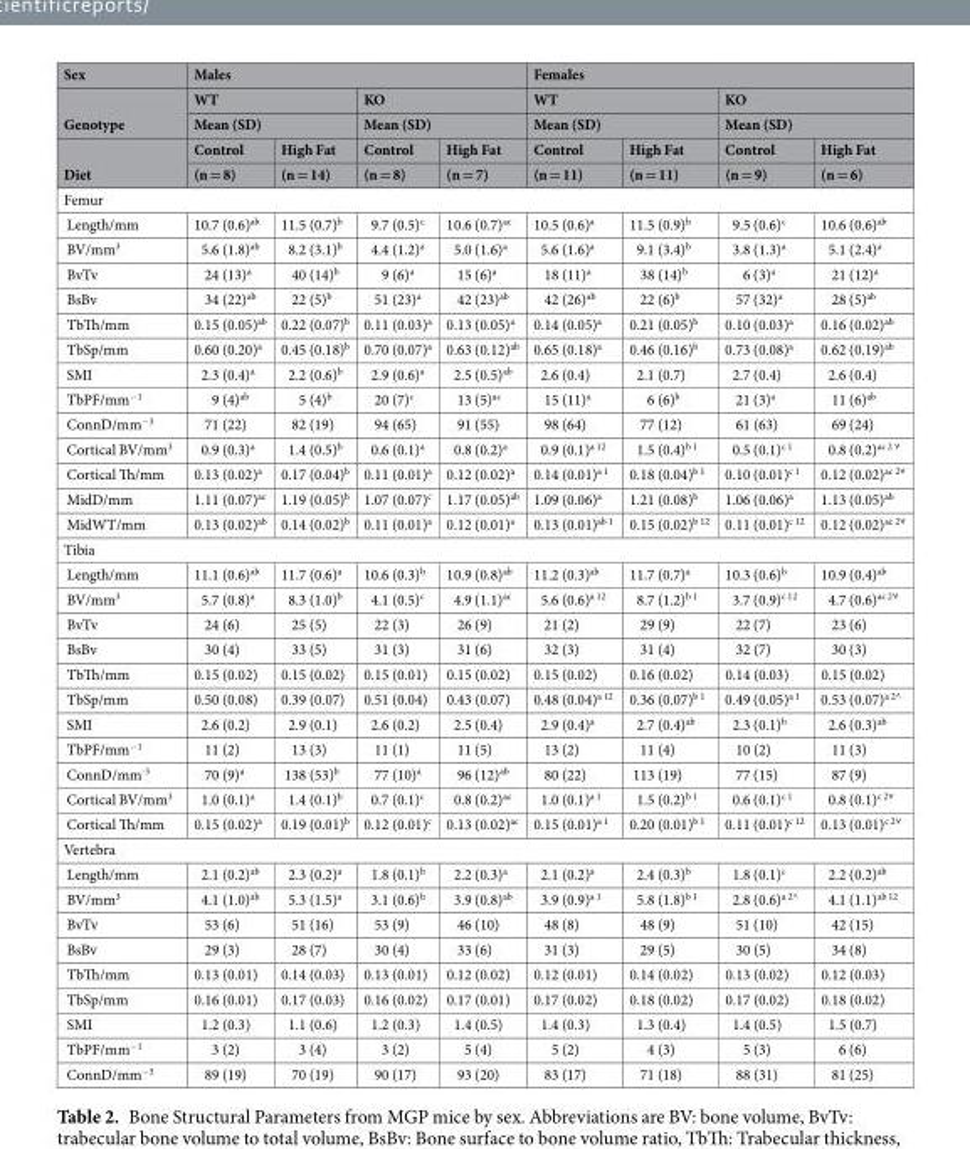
<table><thead><tr><td rowspan="5">Sex Genotype Diet</td><td colspan="4">Males</td><td colspan="4">Females</td></tr><tr><td rowspan="2" colspan="2">WT Mean (SD)</td><td rowspan="2" colspan="2">KO Mean (SD)</td><td rowspan="2" colspan="2">WT Mean (SD)</td><td rowspan="2" colspan="2">KO Mean (SD)</td></tr><tr></tr><tr><td rowspan="2">Control (n = 8)</td><td rowspan="2">High Fat (n = 14)</td><td rowspan="2">Control (n = 8)</td><td rowspan="2">High Fat (n = 7)</td><td rowspan="2">Control (n = 11)</td><td rowspan="2">High Fat (n = 11)</td><td rowspan="2">Control (n = 9)</td><td rowspan="2">High Fat (n = 6)</td></tr><tr></tr></thead><tbody><tr><td colspan="9">Femur</td></tr><tr><td>Length/mm</td><td>10.7 (0.6)<sup>ab</sup></td><td>11.5 (0.7)<sup>b</sup></td><td>9.7 (0.5)<sup>c</sup></td><td>10.6 (0.7)<sup>ac</sup></td><td>10.5 (0.6)<sup>a</sup></td><td>11.5 (0.9)<sup>b</sup></td><td>9.5 (0.6)<sup>c</sup></td><td>10.6 (0.6)<sup>ab</sup></td></tr><tr><td>BV/mm<sup>3</sup></td><td>5.6 (1.8)<sup>ab</sup></td><td>8.2 (3.1)<sup>b</sup></td><td>4.4 (1.2)<sup>a</sup></td><td>5.0 (1.6)<sup>a</sup></td><td>5.6 (1.6)<sup>a</sup></td><td>9.1 (3.4)<sup>b</sup></td><td>3.8 (1.3)<sup>a</sup></td><td>5.1 (2.4)<sup>a</sup></td></tr><tr><td>BvTv</td><td>24 (13)<sup>a</sup></td><td>40 (14)<sup>b</sup></td><td>9 (6)<sup>a</sup></td><td>15 (6)<sup>a</sup></td><td>18 (11)<sup>a</sup></td><td>38 (14)<sup>b</sup></td><td>6 (3)<sup>a</sup></td><td>21 (12)<sup>a</sup></td></tr><tr><td>BsBv</td><td>34 (22)<sup>ab</sup></td><td>22 (5)<sup>b</sup></td><td>51 (23)<sup>a</sup></td><td>42 (23)<sup>ab</sup></td><td>42 (26)<sup>ab</sup></td><td>22 (6)<sup>b</sup></td><td>57 (32)<sup>a</sup></td><td>28 (5)<sup>ab</sup></td></tr><tr><td>TbTh/mm</td><td>0.15 (0.05)<sup>ab</sup></td><td>0.22 (0.07)<sup>b</sup></td><td>0.11 (0.03)<sup>a</sup></td><td>0.13 (0.05)<sup>a</sup></td><td>0.14 (0.05)<sup>a</sup></td><td>0.21 (0.05)<sup>b</sup></td><td>0.10 (0.03)<sup>a</sup></td><td>0.16 (0.02)<sup>ab</sup></td></tr><tr><td>TbSp/mm</td><td>0.60 (0.20)<sup>a</sup></td><td>0.45 (0.18)<sup>b</sup></td><td>0.70 (0.07)<sup>a</sup></td><td>0.63 (0.12)<sup>ab</sup></td><td>0.65 (0.18)<sup>a</sup></td><td>0.46 (0.16)<sup>b</sup></td><td>0.73 (0.08)<sup>a</sup></td><td>0.62 (0.19)<sup>ab</sup></td></tr><tr><td>SMI</td><td>2.3 (0.4)<sup>a</sup></td><td>2.2 (0.6)<sup>b</sup></td><td>2.9 (0.6)<sup>a</sup></td><td>2.5 (0.5)<sup>ab</sup></td><td>2.6 (0.4)</td><td>2.1 (0.7)</td><td>2.7 (0.4)</td><td>2.6 (0.4)</td></tr><tr><td>TbPF/mm<sup>−1</sup></td><td>9 (4)<sup>ab</sup></td><td>5 (4)<sup>b</sup></td><td>20 (7)<sup>c</sup></td><td>13 (5)<sup>ac</sup></td><td>15 (11)<sup>a</sup></td><td>6 (6)<sup>b</sup></td><td>21 (3)<sup>a</sup></td><td>11 (6)<sup>ab</sup></td></tr><tr><td>ConnD/mm<sup>−3</sup></td><td>71 (22)</td><td>82 (19)</td><td>94 (65)</td><td>91 (55)</td><td>98 (64)</td><td>77 (12)</td><td>61 (63)</td><td>69 (24)</td></tr><tr><td>Cortical BV/mm<sup>3</sup></td><td>0.9 (0.3)<sup>a</sup></td><td>1.4 (0.5)<sup>b</sup></td><td>0.6 (0.1)<sup>a</sup></td><td>0.8 (0.2)<sup>a</sup></td><td>0.9 (0.1)<sup>a 12</sup></td><td>1.5 (0.4)<sup>b 1</sup></td><td>0.5 (0.1)<sup>c 1</sup></td><td>0.8 (0.2)<sup>ac 2 ˅</sup></td></tr><tr><td>Cortical Th/mm</td><td>0.13 (0.02)<sup>a</sup></td><td>0.17 (0.04)<sup>b</sup></td><td>0.11 (0.01)<sup>a</sup></td><td>0.12 (0.02)<sup>a</sup></td><td>0.14 (0.01)<sup>a 1</sup></td><td>0.18 (0.04)<sup>b 1</sup></td><td>0.10 (0.01)<sup>c 1</sup></td><td>0.12 (0.02)<sup>ac 2˅</sup></td></tr><tr><td>MidD/mm</td><td>1.11 (0.07)<sup>ac</sup></td><td>1.19 (0.05)<sup>b</sup></td><td>1.07 (0.07)<sup>c</sup></td><td>1.17 (0.05)<sup>ab</sup></td><td>1.09 (0.06)<sup>a</sup></td><td>1.21 (0.08)<sup>b</sup></td><td>1.06 (0.06)<sup>a</sup></td><td>1.13 (0.05)<sup>ab</sup></td></tr><tr><td>MidWT/mm</td><td>0.13 (0.02)<sup>ab</sup></td><td>0.14 (0.02)<sup>b</sup></td><td>0.11 (0.01)<sup>a</sup></td><td>0.12 (0.01)<sup>a</sup></td><td>0.13 (0.01)<sup>ab 1</sup></td><td>0.15 (0.02)<sup>b 12</sup></td><td>0.11 (0.01)<sup>c 12</sup></td><td>0.12 (0.02)<sup>ac 2˅</sup></td></tr><tr><td colspan="9">Tibia</td></tr><tr><td>Length/mm</td><td>11.1 (0.6)<sup>ab</sup></td><td>11.7 (0.6)<sup>a</sup></td><td>10.6 (0.3)<sup>b</sup></td><td>10.9 (0.8)<sup>ab</sup></td><td>11.2 (0.3)<sup>ab</sup></td><td>11.7 (0.7)<sup>a</sup></td><td>10.3 (0.6)<sup>b</sup></td><td>10.9 (0.4)<sup>ab</sup></td></tr><tr><td>BV/mm<sup>3</sup></td><td>5.7 (0.8)<sup>a</sup></td><td>8.3 (1.0)<sup>b</sup></td><td>4.1 (0.5)<sup>c</sup></td><td>4.9 (1.1)<sup>ac</sup></td><td>5.6 (0.6)<sup>a 12</sup></td><td>8.7 (1.2)<sup>b 1</sup></td><td>3.7 (0.9)<sup>c 12</sup></td><td>4.7 (0.6)<sup>ac 2˅</sup></td></tr><tr><td>BvTv</td><td>24 (6)</td><td>25 (5)</td><td>22 (3)</td><td>26 (9)</td><td>21 (2)</td><td>29 (9)</td><td>22 (7)</td><td>23 (6)</td></tr><tr><td>BsBv</td><td>30 (4)</td><td>33 (5)</td><td>31 (3)</td><td>31 (6)</td><td>32 (3)</td><td>31 (4)</td><td>32 (7)</td><td>30 (3)</td></tr><tr><td>TbTh/mm</td><td>0.15 (0.02)</td><td>0.15 (0.02)</td><td>0.15 (0.01)</td><td>0.15 (0.02)</td><td>0.15 (0.02)</td><td>0.16 (0.02)</td><td>0.14 (0.03)</td><td>0.15 (0.02)</td></tr><tr><td>TbSp/mm</td><td>0.50 (0.08)</td><td>0.39 (0.07)</td><td>0.51 (0.04)</td><td>0.43 (0.07)</td><td>0.48 (0.04)<sup>a 12</sup></td><td>0.36 (0.07)<sup>b 1</sup></td><td>0.49 (0.05)<sup>a 1</sup></td><td>0.53 (0.07)a 2^</td></tr><tr><td>SMI</td><td>2.6 (0.2)</td><td>2.9 (0.1)</td><td>2.6 (0.2)</td><td>2.5 (0.4)</td><td>2.9 (0.4)<sup>a</sup></td><td>2.7 (0.4)<sup>ab</sup></td><td>2.3 (0.1)<sup>b</sup></td><td>2.6 (0.3)<sup>ab</sup></td></tr><tr><td>TbPF/mm<sup>−1</sup></td><td>11 (2)</td><td>13 (3)</td><td>11 (1)</td><td>11 (5)</td><td>13 (2)</td><td>11 (4)</td><td>10 (2)</td><td>11 (3)</td></tr><tr><td>ConnD/mm<sup>-3</sup></td><td>70 (9)<sup>a</sup></td><td>138 (53)<sup>b</sup></td><td>77 (10)<sup>a</sup></td><td>96 (12)<sup>ab</sup></td><td>80 (22)</td><td>113 (19)</td><td>77 (15)</td><td>87 (9)</td></tr><tr><td>Cortical BV/mm<sup>3</sup></td><td>1.0 (0.1)<sup>a</sup></td><td>1.4 (0.1)<sup>b</sup></td><td>0.7 (0.1)<sup>c</sup></td><td>0.8 (0.2)<sup>ac</sup></td><td>1.0 (0.1)<sup>a 1</sup></td><td>1.5 (0.2)<sup>b 1</sup></td><td>0.6 (0.1)<sup>c 1</sup></td><td>0.8 (0.1)<sup>c 2˅</sup></td></tr><tr><td>Cortical Th/mm</td><td>0.15 (0.02)<sup>a</sup></td><td>0.19 (0.01)<sup>b</sup></td><td>0.12 (0.01)<sup>c</sup></td><td>0.13 (0.02)<sup>ac</sup></td><td>0.15 (0.01)<sup>a 1</sup></td><td>0.20 (0.01)<sup>b 1</sup></td><td>0.11 (0.01)<sup>c 12</sup></td><td>0.13 (0.01)<sup>c 2˅</sup></td></tr><tr><td colspan="9">Vertebra</td></tr><tr><td>Length/mm</td><td>2.1 (0.2)<sup>ab</sup></td><td>2.3 (0.2)<sup>a</sup></td><td>1.8 (0.1)<sup>b</sup></td><td>2.2 (0.3)<sup>a</sup></td><td>2.1 (0.2)<sup>a</sup></td><td>2.4 (0.3)<sup>b</sup></td><td>1.8 (0.1)<sup>c</sup></td><td>2.2 (0.2)<sup>ab</sup></td></tr><tr><td>BV/mm<sup>3</sup></td><td>4.1 (1.0)<sup>ab</sup></td><td>5.3 (1.5)<sup>a</sup></td><td>3.1 (0.6)<sup>b</sup></td><td>3.9 (0.8)<sup>ab</sup></td><td>3.9 (0.9)<sup>a 1</sup></td><td>5.8 (1.8)<sup>b 1</sup></td><td>2.8 (0.6)a 2^</td><td>4.1 (1.1)<sup>ab 12</sup></td></tr><tr><td>BvTv</td><td>53 (6)</td><td>51 (16)</td><td>53 (9)</td><td>46 (10)</td><td>48 (8)</td><td>48 (9)</td><td>51 (10)</td><td>42 (15)</td></tr><tr><td>BsBv</td><td>29 (3)</td><td>28 (7)</td><td>30 (4)</td><td>33 (6)</td><td>31 (3)</td><td>29 (5)</td><td>30 (5)</td><td>34 (8)</td></tr><tr><td>TbTh/mm</td><td>0.13 (0.01)</td><td>0.14 (0.03)</td><td>0.13 (0.01)</td><td>0.12 (0.02)</td><td>0.12 (0.01)</td><td>0.14 (0.02)</td><td>0.13 (0.02)</td><td>0.12 (0.03)</td></tr><tr><td>TbSp/mm</td><td>0.16 (0.01)</td><td>0.17 (0.03)</td><td>0.16 (0.02)</td><td>0.17 (0.01)</td><td>0.17 (0.02)</td><td>0.18 (0.02)</td><td>0.17 (0.02)</td><td>0.18 (0.02)</td></tr><tr><td>SMI</td><td>1.2 (0.3)</td><td>1.1 (0.6)</td><td>1.2 (0.3)</td><td>1.4 (0.5)</td><td>1.4 (0.3)</td><td>1.3 (0.4)</td><td>1.4 (0.5)</td><td>1.5 (0.7)</td></tr><tr><td>TbPF/mm<sup>−1</sup></td><td>3 (2)</td><td>3 (4)</td><td>3 (2)</td><td>5 (4)</td><td>5 (2)</td><td>4 (3)</td><td>5 (3)</td><td>6 (6)</td></tr><tr><td>ConnD/mm<sup>−3</sup></td><td>89 (19)</td><td>70 (19)</td><td>90 (17)</td><td>93 (20)</td><td>83 (17)</td><td>71 (18)</td><td>88 (31)</td><td>81 (25)</td></tr></tbody></table>